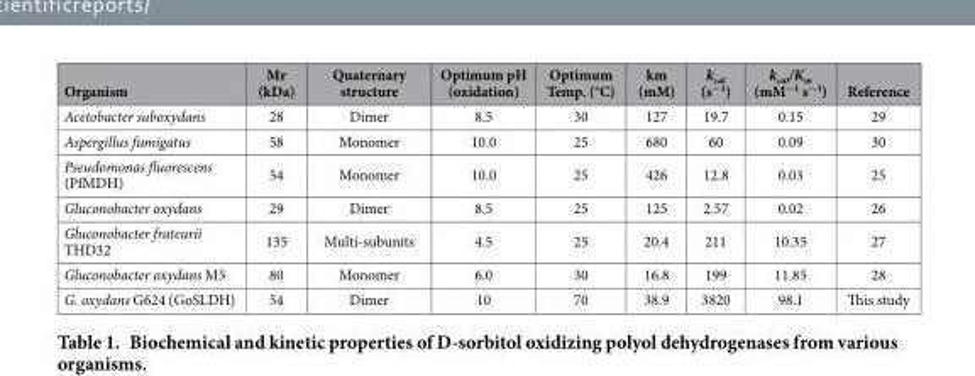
<table><thead><tr><td>Organism</td><td>Mr (kDa)</td><td>Quaternary structure</td><td>Optimum pH (oxidation)</td><td>Optimum Temp. (°C)</td><td>km (mM)</td><td>k<sub>cat</sub> (s<sup>−1</sup>)</td><td>k<sub>cat</sub>/K<sub>m</sub> (mM<sup>−1</sup> s<sup>−1</sup>)</td><td>Reference</td></tr></thead><tbody><tr><td>Acetobacter suboxydans</td><td>28</td><td>Dimer</td><td>8.5</td><td>30</td><td>127</td><td>19.7</td><td>0.15</td><td>29</td></tr><tr><td>Aspergillus fumigatus</td><td>58</td><td>Monomer</td><td>10.0</td><td>25</td><td>680</td><td>60</td><td>0.09</td><td>30</td></tr><tr><td>Pseudomonas fluorescens (PfMDH)</td><td>54</td><td>Monomer</td><td>10.0</td><td>25</td><td>426</td><td>12.8</td><td>0.03</td><td>25</td></tr><tr><td>Gluconobacter oxydans</td><td>29</td><td>Dimer</td><td>8.5</td><td>25</td><td>125</td><td>2.57</td><td>0.02</td><td>26</td></tr><tr><td>Gluconobacter frateurii THD32</td><td>135</td><td>Multi-subunits</td><td>4.5</td><td>25</td><td>20.4</td><td>211</td><td>10.35</td><td>27</td></tr><tr><td>Gluconobacter oxydans M5</td><td>80</td><td>Monomer</td><td>6.0</td><td>30</td><td>16.8</td><td>199</td><td>11.85</td><td>28</td></tr><tr><td>G. oxydans G624 (GoSLDH)</td><td>54</td><td>Dimer</td><td>10</td><td>70</td><td>38.9</td><td>3820</td><td>98.1</td><td>This study</td></tr></tbody></table>